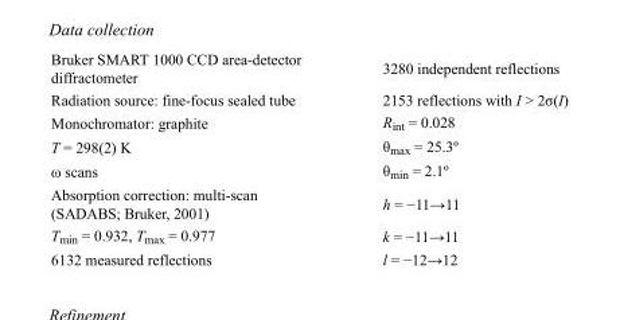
<table><tbody><tr><td>Bruker SMART 1000 CCD area-detector diffractometer</td><td>3280 independent reflections</td></tr><tr><td>Radiation source: fine-focus sealed tube</td><td>2153 reflections with I &gt; 2σ(I)</td></tr><tr><td>Monochromator: graphite</td><td>R<sub>int</sub> = 0.028</td></tr><tr><td>T = 298(2) K</td><td>θ<sub>max</sub> = 25.3º</td></tr><tr><td>ω scans</td><td>θ<sub>min</sub> = 2.1º</td></tr><tr><td>Absorption correction: multi-scan (SADABS; Bruker, 2001)</td><td>h = −11→11</td></tr><tr><td>T<sub>min</sub> = 0.932, T<sub>max</sub> = 0.977</td><td>k = −11→11</td></tr><tr><td>6132 measured reflections</td><td>l = −12→12</td></tr></tbody></table>